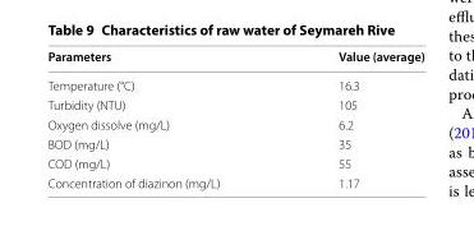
<table><thead><tr><td>Parameters</td><td>Value (average)</td></tr></thead><tbody><tr><td>Temperature (°C)</td><td>16.3</td></tr><tr><td>Turbidity (NTU)</td><td>105</td></tr><tr><td>Oxygen dissolve (mg/L)</td><td>6.2</td></tr><tr><td>BOD (mg/L)</td><td>35</td></tr><tr><td>COD (mg/L)</td><td>55</td></tr><tr><td>Concentration of diazinon (mg/L)</td><td>1.17</td></tr></tbody></table>